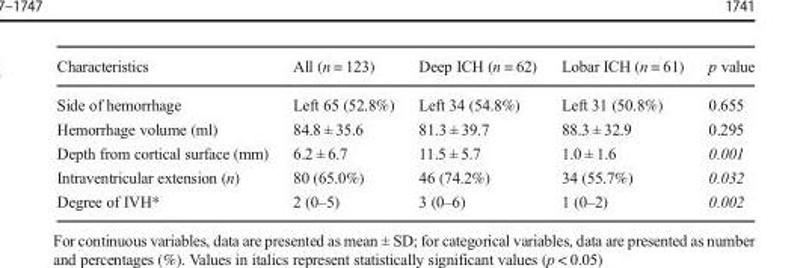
<table><thead><tr><td>Characteristics</td><td>All (n = 123)</td><td>Deep ICH (n = 62)</td><td>Lobar ICH (n = 61)</td><td>p value</td></tr></thead><tbody><tr><td>Side of hemorrhage</td><td>Left 65 (52.8%)</td><td>Left 34 (54.8%)</td><td>Left 31 (50.8%)</td><td>0.655</td></tr><tr><td>Hemorrhage volume (ml)</td><td>84.8 ± 35.6</td><td>81.3 ± 39.7</td><td>88.3 ± 32.9</td><td>0.295</td></tr><tr><td>Depth from cortical surface (mm)</td><td>6.2 ± 6.7</td><td>11.5 ± 5.7</td><td>1.0 ± 1.6</td><td>0.001</td></tr><tr><td>Intraventricular extension (n)</td><td>80 (65.0%)</td><td>46 (74.2%)</td><td>34 (55.7%)</td><td>0.032</td></tr><tr><td>Degree of IVH*</td><td>2 (0–5)</td><td>3 (0–6)</td><td>1 (0–2)</td><td>0.002</td></tr></tbody></table>